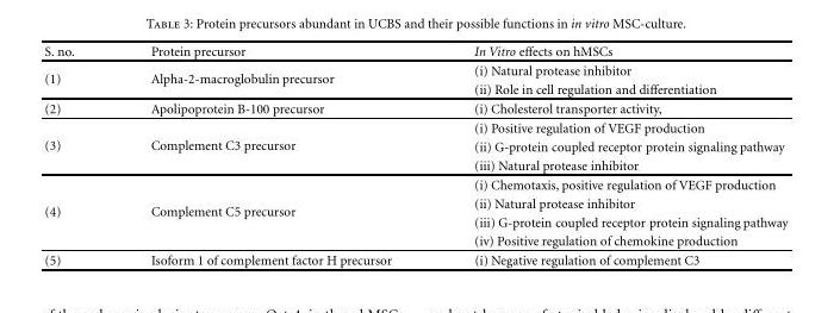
<table><thead><tr><td>S. no.</td><td>Protein precursor</td><td>In Vitro effects on hMSCs</td></tr></thead><tbody><tr><td rowspan="2">(1)</td><td rowspan="2">Alpha-2-macroglobulin precursor</td><td>(i) Natural protease inhibitor</td></tr><tr><td>(ii) Role in cell regulation and differentiation</td></tr><tr><td>(2)</td><td>Apolipoprotein B-100 precursor</td><td>(i) Cholesterol transporter activity,</td></tr><tr><td rowspan="3">(3)</td><td rowspan="3">Complement C3 precursor</td><td>(i) Positive regulation of VEGF production</td></tr><tr><td>(ii) G-protein coupled receptor protein signaling pathway</td></tr><tr><td>(iii) Natural protease inhibitor</td></tr><tr><td rowspan="4">(4)</td><td rowspan="4">Complement C5 precursor</td><td>(i) Chemotaxis, positive regulation of VEGF production</td></tr><tr><td>(ii) Natural protease inhibitor</td></tr><tr><td>(iii) G-protein coupled receptor protein signaling pathway</td></tr><tr><td>(iv) Positive regulation of chemokine production</td></tr><tr><td>(5)</td><td>Isoform 1 of complement factor H precursor</td><td>(i) Negative regulation of complement C3</td></tr></tbody></table>